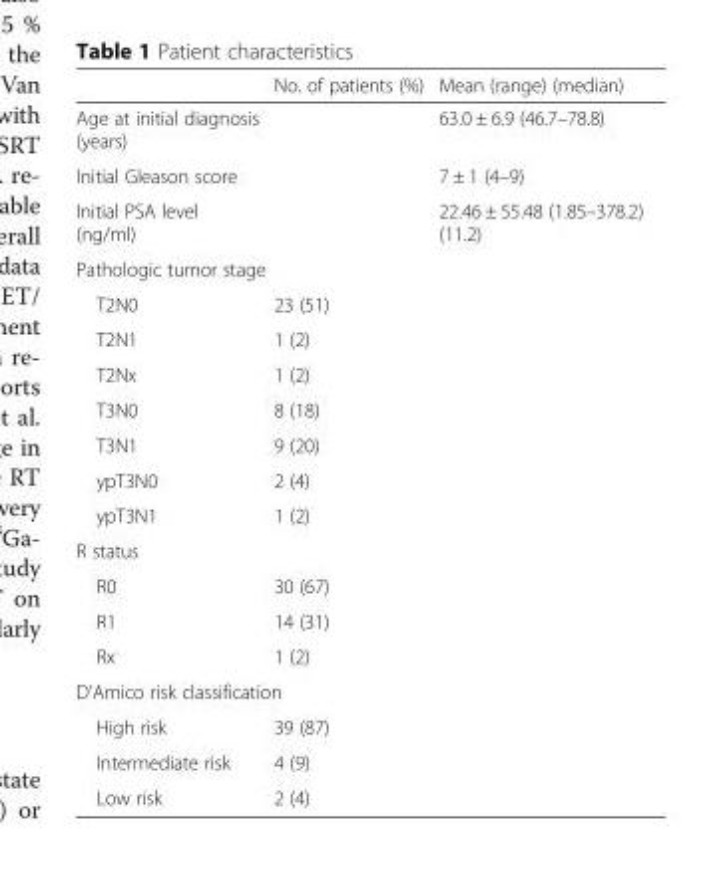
<table><thead><tr><td></td><td>No. of patients (%)</td><td>Mean (range) (median)</td></tr></thead><tbody><tr><td>Age at initial diagnosis (years)</td><td></td><td>63.0 ± 6.9 (46.7–78.8)</td></tr><tr><td>Initial Gleason score</td><td></td><td>7 ± 1 (4–9)</td></tr><tr><td>Initial PSA level (ng/ml)</td><td></td><td>22.46 ± 55.48 (1.85–378.2) (11.2)</td></tr><tr><td colspan="3">Pathologic tumor stage</td></tr><tr><td>T2N0</td><td>23 (51)</td><td></td></tr><tr><td>T2N1</td><td>1 (2)</td><td></td></tr><tr><td>T2Nx</td><td>1 (2)</td><td></td></tr><tr><td>T3N0</td><td>8 (18)</td><td></td></tr><tr><td>T3N1</td><td>9 (20)</td><td></td></tr><tr><td>ypT3N0</td><td>2 (4)</td><td></td></tr><tr><td>ypT3N1</td><td>1 (2)</td><td></td></tr><tr><td colspan="3">R status</td></tr><tr><td>R0</td><td>30 (67)</td><td></td></tr><tr><td>R1</td><td>14 (31)</td><td></td></tr><tr><td>Rx</td><td>1 (2)</td><td></td></tr><tr><td colspan="3">D’Amico risk classification</td></tr><tr><td>High risk</td><td>39 (87)</td><td></td></tr><tr><td>Intermediate risk</td><td>4 (9)</td><td></td></tr><tr><td>Low risk</td><td>2 (4)</td><td></td></tr></tbody></table>